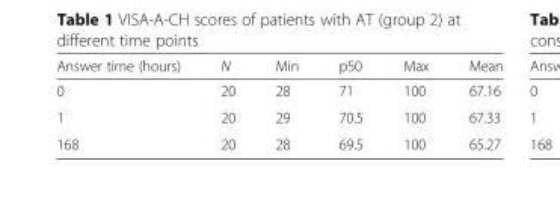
<table><thead><tr><td>Answer time (hours)</td><td>N</td><td>Min</td><td>p50</td><td>Max</td><td>Mean</td></tr></thead><tbody><tr><td>0</td><td>20</td><td>28</td><td>71</td><td>100</td><td>67.16</td></tr><tr><td>1</td><td>20</td><td>29</td><td>70.5</td><td>100</td><td>67.33</td></tr><tr><td>168</td><td>20</td><td>28</td><td>69.5</td><td>100</td><td>65.27</td></tr></tbody></table>